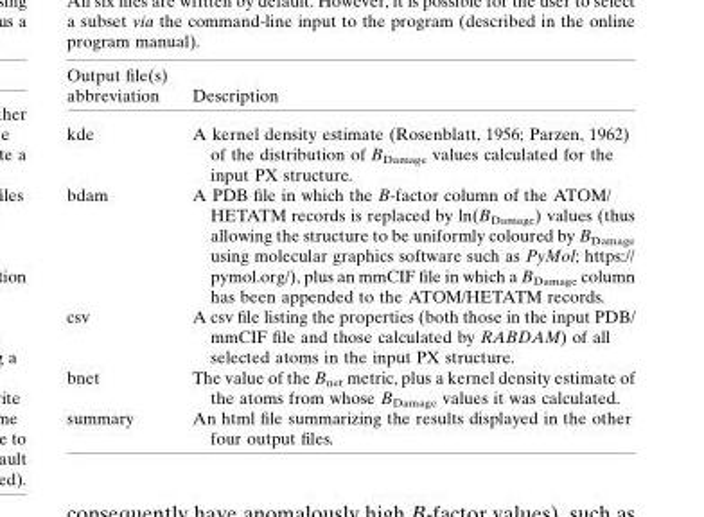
<table><thead><tr><td>Output file(s) abbreviation</td><td>Description</td></tr></thead><tbody><tr><td>kde</td><td>A kernel density estimate (Rosenblatt, 1956; Parzen, 1962) of the distribution of BDamage values calculated for the input PX structure.</td></tr><tr><td>bdam</td><td>A PDB file in which the B-factor column of the ATOM/ HETATM records is replaced by ln(B<sub>Damage</sub>) values (thus allowing the structure to be uniformly coloured by B<sub>Damage</sub> using molecular graphics software such as PyMol; https:// pymol.org/), plus an mmCIF file in which a B<sub>Damage</sub> column has been appended to the ATOM/HETATM records.</td></tr><tr><td>csv</td><td>A csv file listing the properties (both those in the input PDB/ mmCIF file and those calculated by RABDAM) of all selected atoms in the input PX structure.</td></tr><tr><td>bnet</td><td>The value of the B<sub>net</sub> metric, plus a kernel density estimate of the atoms from whose B<sub>Damage</sub> values it was calculated.</td></tr><tr><td>summary</td><td>An html file summarizing the results displayed in the other four output files.</td></tr></tbody></table>